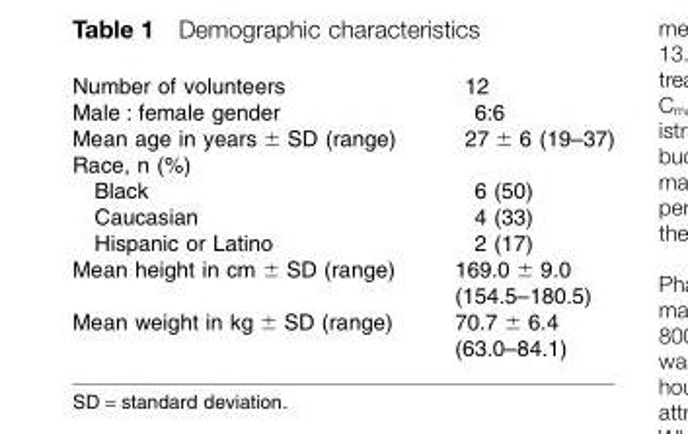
<table><tbody><tr><td>Number of volunteers</td><td>12</td></tr><tr><td>Male : female gender</td><td>6:6</td></tr><tr><td>Mean age in years ± SD (range)</td><td>27 ± 6 (19–37)</td></tr><tr><td colspan="2">Race, n (%)</td></tr><tr><td>Black</td><td>6 (50)</td></tr><tr><td>Caucasian</td><td>4 (33)</td></tr><tr><td>Hispanic or Latino</td><td>2 (17)</td></tr><tr><td>Mean height in cm ± SD (range)</td><td>169.0 ± 9.0 (154.5–180.5)</td></tr><tr><td>Mean weight in kg ± SD (range)</td><td>70.7 ± 6.4 (63.0–84.1)</td></tr></tbody></table>